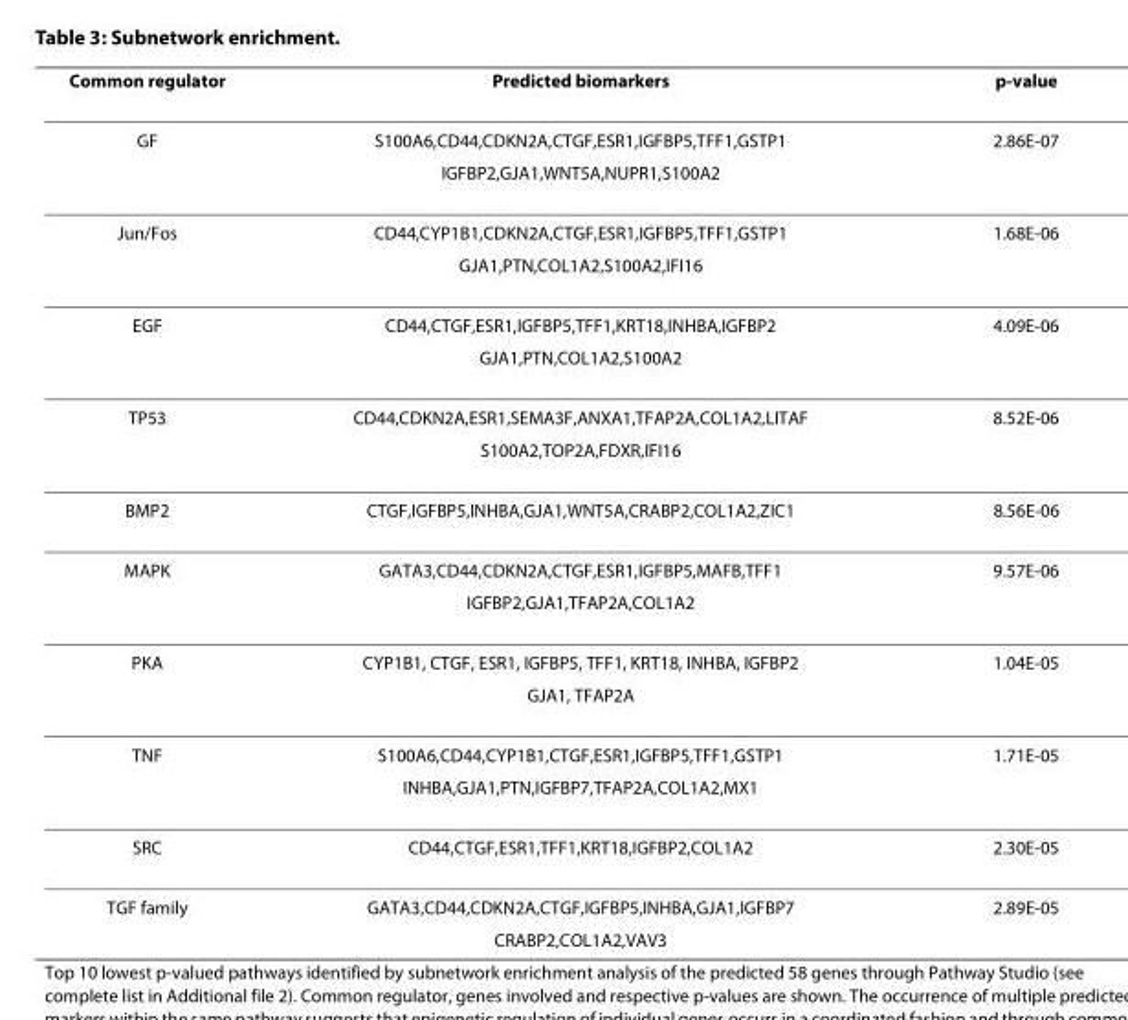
<table><thead><tr><td>Common regulator</td><td>Predicted biomarkers</td><td>p-value</td></tr></thead><tbody><tr><td rowspan="2">GF</td><td>S100A6,CD44,CDKN2A,CTGF,ESR1,IGFBP5,TFF1,GSTP1</td><td>2.86E-07</td></tr><tr><td>IGFBP2,GJA1,WNT5A,NUPR1,S100A2</td><td></td></tr><tr><td rowspan="2">Jun/Fos</td><td>CD44,CYP1B1,CDKN2A,CTGF,ESR1,IGFBP5,TFF1,GSTP1</td><td>1.68E-06</td></tr><tr><td>GJA1,PTN,COL1A2,S100A2,IFI16</td><td></td></tr><tr><td rowspan="2">EGF</td><td>CD44,CTGF,ESR1,IGFBP5,TFF1,KRT18,INHBA,IGFBP2</td><td>4.09E-06</td></tr><tr><td>GJA1,PTN,COL1A2,S100A2</td><td></td></tr><tr><td rowspan="2">TP53</td><td>CD44,CDKN2A,ESR1,SEMA3F,ANXA1,TFAP2A,COL1A2,LITAF</td><td>8.52E-06</td></tr><tr><td>S100A2,TOP2A,FDXR,IFI16</td><td></td></tr><tr><td>BMP2</td><td>CTGF,IGFBP5,INHBA,GJA1,WNT5A,CRABP2,COL1A2,ZIC1</td><td>8.56E-06</td></tr><tr><td rowspan="2">MAPK</td><td>GATA3,CD44,CDKN2A,CTGF,ESR1,IGFBP5,MAFB,TFF1</td><td>9.57E-06</td></tr><tr><td>IGFBP2,GJA1,TFAP2A,COL1A2</td><td></td></tr><tr><td rowspan="2">PKA</td><td>CYP1B1, CTGF, ESR1, IGFBP5, TFF1, KRT18, INHBA, IGFBP2</td><td>1.04E-05</td></tr><tr><td>GJA1, TFAP2A</td><td></td></tr><tr><td rowspan="2">TNF</td><td>S100A6,CD44,CYP1B1,CTGF,ESR1,IGFBP5,TFF1,GSTP1</td><td>1.71E-05</td></tr><tr><td>INHBA,GJA1,PTN,IGFBP7,TFAP2A,COL1A2,MX1</td><td></td></tr><tr><td>SRC</td><td>CD44,CTGF,ESR1,TFF1,KRT18,IGFBP2,COL1A2</td><td>2.30E-05</td></tr><tr><td rowspan="2">TGF family</td><td>GATA3,CD44,CDKN2A,CTGF,IGFBP5,INHBA,GJA1,IGFBP7</td><td>2.89E-05</td></tr><tr><td>CRABP2,COL1A2,VAV3</td><td></td></tr></tbody></table>